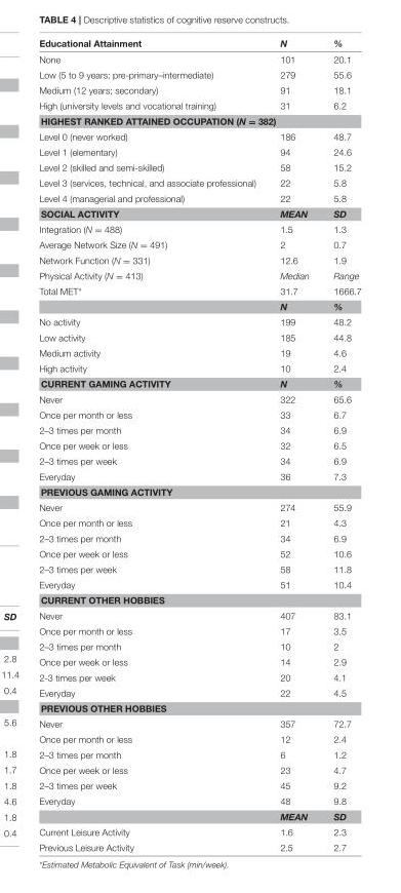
<table><thead><tr><td>Educational Attainment</td><td>N</td><td>%</td></tr></thead><tbody><tr><td>None</td><td>101</td><td>20.1</td></tr><tr><td>Low (5 to 9 years; pre-primary–intermediate)</td><td>279</td><td>55.6</td></tr><tr><td>Medium (12 years; secondary)</td><td>91</td><td>18.1</td></tr><tr><td>High (university levels and vocational training)</td><td>31</td><td>6.2</td></tr><tr><td colspan="3">HIGHEST RANKED ATTAINED OCCUPATION (N = 382)</td></tr><tr><td>Level 0 (never worked)</td><td>186</td><td>48.7</td></tr><tr><td>Level 1 (elementary)</td><td>94</td><td>24.6</td></tr><tr><td>Level 2 (skilled and semi-skilled)</td><td>58</td><td>15.2</td></tr><tr><td>Level 3 (services, technical, and associate professional)</td><td>22</td><td>5.8</td></tr><tr><td>Level 4 (managerial and professional)</td><td>22</td><td>5.8</td></tr><tr><td>SOCIAL ACTIVITY</td><td>MEAN</td><td>SD</td></tr><tr><td>Integration (N = 488)</td><td>1.5</td><td>1.3</td></tr><tr><td>Average Network Size (N = 491)</td><td>2</td><td>0.7</td></tr><tr><td>Network Function (N = 331)</td><td>12.6</td><td>1.9</td></tr><tr><td>Physical Activity (N = 413)</td><td>Median</td><td>Range</td></tr><tr><td rowspan="2">Total MET*</td><td>31.7</td><td>1666.7</td></tr><tr><td>N</td><td>%</td></tr><tr><td>No activity</td><td>199</td><td>48.2</td></tr><tr><td>Low activity</td><td>185</td><td>44.8</td></tr><tr><td>Medium activity</td><td>19</td><td>4.6</td></tr><tr><td>High activity</td><td>10</td><td>2.4</td></tr><tr><td>CURRENT GAMING ACTIVITY</td><td>N</td><td>%</td></tr><tr><td>Never</td><td>322</td><td>65.6</td></tr><tr><td>Once per month or less</td><td>33</td><td>6.7</td></tr><tr><td>2–3 times per month</td><td>34</td><td>6.9</td></tr><tr><td>Once per week or less</td><td>32</td><td>6.5</td></tr><tr><td>2–3 times per week</td><td>34</td><td>6.9</td></tr><tr><td>Everyday</td><td>36</td><td>7.3</td></tr><tr><td colspan="3">PREVIOUS GAMING ACTIVITY</td></tr><tr><td>Never</td><td>274</td><td>55.9</td></tr><tr><td>Once per month or less</td><td>21</td><td>4.3</td></tr><tr><td>2–3 times per month</td><td>34</td><td>6.9</td></tr><tr><td>Once per week or less</td><td>52</td><td>10.6</td></tr><tr><td>2–3 times per week</td><td>58</td><td>11.8</td></tr><tr><td>Everyday</td><td>51</td><td>10.4</td></tr><tr><td colspan="3">CURRENT OTHER HOBBIES</td></tr><tr><td>Never</td><td>407</td><td>83.1</td></tr><tr><td>Once per month or less</td><td>17</td><td>3.5</td></tr><tr><td>2–3 times per month</td><td>10</td><td>2</td></tr><tr><td>Once per week or less</td><td>14</td><td>2.9</td></tr><tr><td>2-3 times per week</td><td>20</td><td>4.1</td></tr><tr><td>Everyday</td><td>22</td><td>4.5</td></tr><tr><td colspan="3">PREVIOUS OTHER HOBBIES</td></tr><tr><td>Never</td><td>357</td><td>72.7</td></tr><tr><td>Once per month or less</td><td>12</td><td>2.4</td></tr><tr><td>2–3 times per month</td><td>6</td><td>1.2</td></tr><tr><td>Once per week or less</td><td>23</td><td>4.7</td></tr><tr><td>2–3 times per week</td><td>45</td><td>9.2</td></tr><tr><td rowspan="2">Everyday</td><td>48</td><td>9.8</td></tr><tr><td>MEAN</td><td>SD</td></tr><tr><td>Current Leisure Activity</td><td>1.6</td><td>2.3</td></tr><tr><td>Previous Leisure Activity</td><td>2.5</td><td>2.7</td></tr></tbody></table>